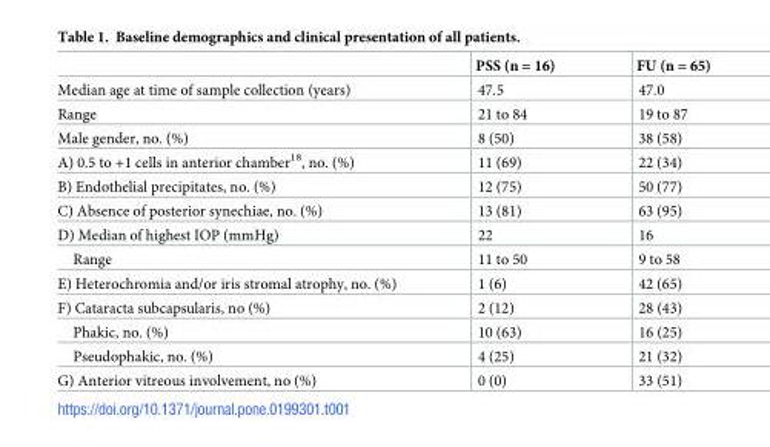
<table><thead><tr><td></td><td>PSS (n = 16)</td><td>FU (n = 65)</td></tr></thead><tbody><tr><td>Median age at time of sample collection (years)</td><td>47.5</td><td>47.0</td></tr><tr><td>Range</td><td>21 to 84</td><td>19 to 87</td></tr><tr><td>Male gender, no. (%)</td><td>8 (50)</td><td>38 (58)</td></tr><tr><td>A) 0.5 to +1 cells in anterior chamber<sup>18</sup>, no. (%)</td><td>11 (69)</td><td>22 (34)</td></tr><tr><td>B) Endothelial precipitates, no. (%)</td><td>12 (75)</td><td>50 (77)</td></tr><tr><td>C) Absence of posterior synechiae, no. (%)</td><td>13 (81)</td><td>63 (95)</td></tr><tr><td>D) Median of highest IOP (mmHg)</td><td>22</td><td>16</td></tr><tr><td>Range</td><td>11 to 50</td><td>9 to 58</td></tr><tr><td>E) Heterochromia and/or iris stromal atrophy, no. (%)</td><td>1 (6)</td><td>42 (65)</td></tr><tr><td>F) Cataracta subcapsularis, no (%)</td><td>2 (12)</td><td>28 (43)</td></tr><tr><td>Phakic, no. (%)</td><td>10 (63)</td><td>16 (25)</td></tr><tr><td>Pseudophakic, no. (%)</td><td>4 (25)</td><td>21 (32)</td></tr><tr><td>G) Anterior vitreous involvement, no (%)</td><td>0 (0)</td><td>33 (51)</td></tr></tbody></table>